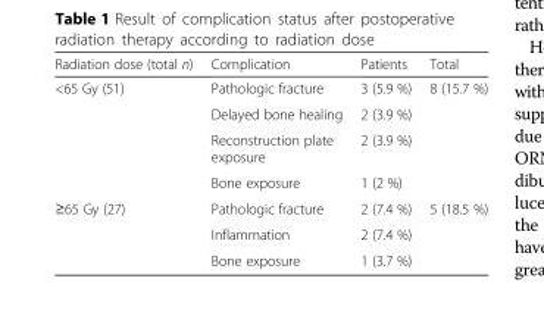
<table><thead><tr><td>Radiation dose (total n)</td><td>Complication</td><td>Patients</td><td>Total</td></tr></thead><tbody><tr><td rowspan="4">&lt;65 Gy (51)</td><td>Pathologic fracture</td><td>3 (5.9 %)</td><td rowspan="4">8 (15.7 %)</td></tr><tr><td>Delayed bone healing</td><td>2 (3.9 %)</td></tr><tr><td>Reconstruction plate exposure</td><td>2 (3.9 %)</td></tr><tr><td>Bone exposure</td><td>1 (2 %)</td></tr><tr><td rowspan="3">≥65 Gy (27)</td><td>Pathologic fracture</td><td>2 (7.4 %)</td><td rowspan="3">5 (18.5 %)</td></tr><tr><td>Inflammation</td><td>2 (7.4 %)</td></tr><tr><td>Bone exposure</td><td>1 (3.7 %)</td></tr></tbody></table>